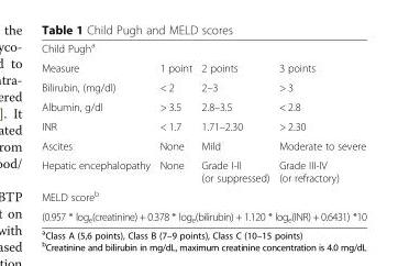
<table><tbody><tr><td colspan="4">Child Pugh<sup>a</sup></td></tr><tr><td>Measure</td><td>1 point</td><td>2 points</td><td>3 points</td></tr><tr><td>Bilirubin, (mg/dl)</td><td>&lt; 2</td><td>2–3</td><td>&gt; 3</td></tr><tr><td>Albumin, g/dl</td><td>&gt; 3.5</td><td>2.8–3.5</td><td>&lt; 2.8</td></tr><tr><td>INR</td><td>&lt; 1.7</td><td>1.71–2.30</td><td>&gt; 2.30</td></tr><tr><td>Ascites</td><td>None</td><td>Mild</td><td>Moderate to severe</td></tr><tr><td>Hepatic encephalopathy</td><td>None</td><td>Grade I-II (or suppressed)</td><td>Grade III-IV (or refractory)</td></tr><tr><td colspan="4">MELD score<sup>b</sup></td></tr><tr><td colspan="4">(0.957 * log<sub>e</sub>(creatinine) + 0.378 * log<sub>e</sub>(bilirubin) + 1.120 * log<sub>e</sub>(INR) + 0.6431) *10</td></tr></tbody></table>